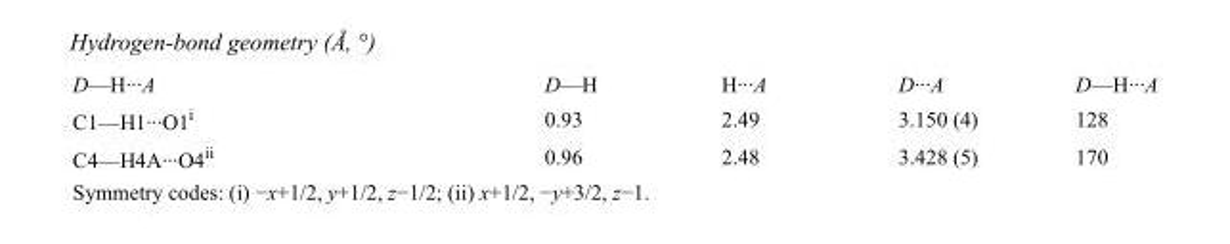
<table><tbody><tr><td>D—H···A</td><td>D—H</td><td>H···A</td><td>D···A</td><td>D—H···A</td></tr><tr><td>C1—H1···O1<sup>i</sup></td><td>0.93</td><td>2.49</td><td>3.150 (4)</td><td>128</td></tr><tr><td>C4—H4A···O4<sup>ii</sup></td><td>0.96</td><td>2.48</td><td>3.428 (5)</td><td>170</td></tr></tbody></table>